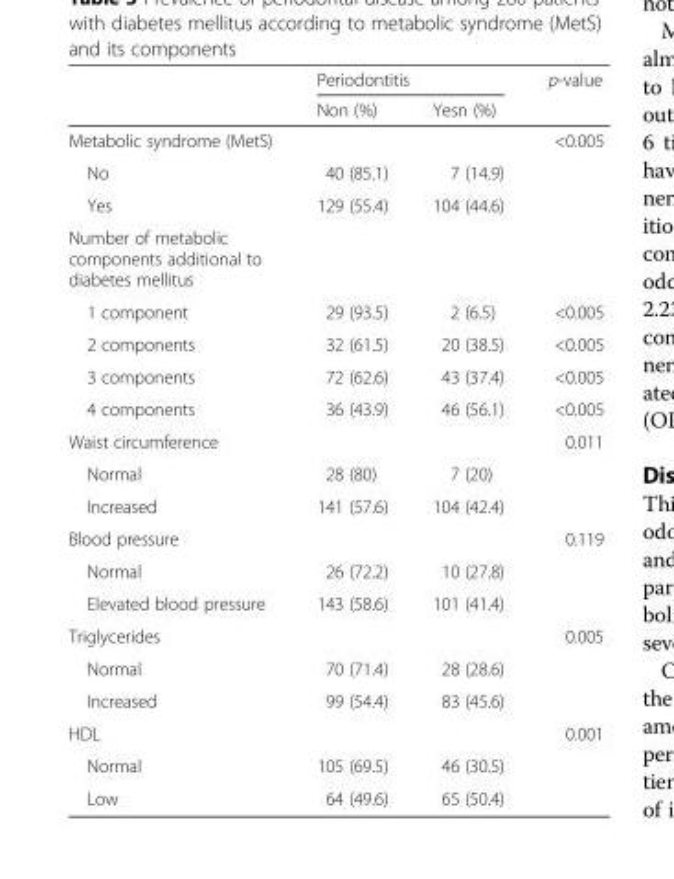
<table><thead><tr><td rowspan="2"></td><td colspan="2">Periodontitis</td><td rowspan="2">p-value</td></tr><tr><td>Non (%)</td><td>Yesn (%)</td></tr></thead><tbody><tr><td>Metabolic syndrome (MetS)</td><td></td><td></td><td>&lt;0.005</td></tr><tr><td>No</td><td>40 (85.1)</td><td>7 (14.9)</td><td></td></tr><tr><td>Yes</td><td>129 (55.4)</td><td>104 (44.6)</td><td></td></tr><tr><td colspan="4">Number of metabolic components additional to diabetes mellitus</td></tr><tr><td>1 component</td><td>29 (93.5)</td><td>2 (6.5)</td><td>&lt;0.005</td></tr><tr><td>2 components</td><td>32 (61.5)</td><td>20 (38.5)</td><td>&lt;0.005</td></tr><tr><td>3 components</td><td>72 (62.6)</td><td>43 (37.4)</td><td>&lt;0.005</td></tr><tr><td>4 components</td><td>36 (43.9)</td><td>46 (56.1)</td><td>&lt;0.005</td></tr><tr><td>Waist circumference</td><td></td><td></td><td>0.011</td></tr><tr><td>Normal</td><td>28 (80)</td><td>7 (20)</td><td></td></tr><tr><td>Increased</td><td>141 (57.6)</td><td>104 (42.4)</td><td></td></tr><tr><td>Blood pressure</td><td></td><td></td><td>0.119</td></tr><tr><td>Normal</td><td>26 (72.2)</td><td>10 (27.8)</td><td></td></tr><tr><td>Elevated blood pressure</td><td>143 (58.6)</td><td>101 (41.4)</td><td></td></tr><tr><td>Triglycerides</td><td></td><td></td><td>0.005</td></tr><tr><td>Normal</td><td>70 (71.4)</td><td>28 (28.6)</td><td></td></tr><tr><td>Increased</td><td>99 (54.4)</td><td>83 (45.6)</td><td></td></tr><tr><td>HDL</td><td></td><td></td><td>0.001</td></tr><tr><td>Normal</td><td>105 (69.5)</td><td>46 (30.5)</td><td></td></tr><tr><td>Low</td><td>64 (49.6)</td><td>65 (50.4)</td><td></td></tr></tbody></table>